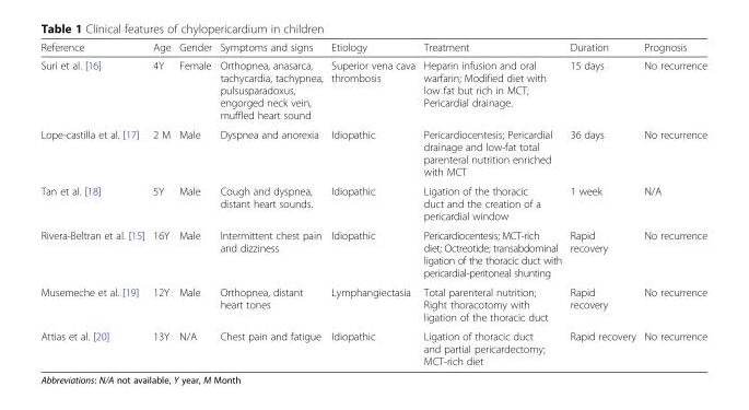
<table><thead><tr><td>Reference</td><td>Age</td><td>Gender</td><td>Symptoms and signs</td><td>Etiology</td><td>Treatment</td><td>Duration</td><td>Prognosis</td></tr></thead><tbody><tr><td>Suri et al. [16]</td><td>4Y</td><td>Female</td><td>Orthopnea, anasarca, tachycardia, tachypnea, pulsusparadoxus, engorged neck vein, muffled heart sound</td><td>Superior vena cava thrombosis</td><td>Heparin infusion and oral warfarin; Modified diet with low fat but rich in MCT; Pericardial drainage.</td><td>15 days</td><td>No recurrence</td></tr><tr><td>Lope-castilla et al. [17]</td><td>2 M</td><td>Male</td><td>Dyspnea and anorexia</td><td>Idiopathic</td><td>Pericardiocentesis; Pericardial drainage and low-fat total parenteral nutrition enriched with MCT</td><td>36 days</td><td>No recurrence</td></tr><tr><td>Tan et al. [18]</td><td>5Y</td><td>Male</td><td>Cough and dyspnea, distant heart sounds.</td><td>Idiopathic</td><td>Ligation of the thoracic duct and the creation of a pericardial window</td><td>1 week</td><td>N/A</td></tr><tr><td>Rivera-Beltran et al. [15]</td><td>16Y</td><td>Male</td><td>Intermittent chest pain and dizziness</td><td>Idiopathic</td><td>Pericardiocentesis; MCT-rich diet; Octreotide; transabdominal ligation of the thoracic duct with pericardial-peritoneal shunting</td><td>Rapid recovery</td><td>No recurrence</td></tr><tr><td>Musemeche et al. [19]</td><td>12Y</td><td>Male</td><td>Orthopnea, distant heart tones</td><td>Lymphangiectasia</td><td>Total parenteral nutrition; Right thoracotomy with ligation of the thoracic duct</td><td>Rapid recovery</td><td>No recurrence</td></tr><tr><td>Attias et al. [20]</td><td>13Y</td><td>N/A</td><td>Chest pain and fatigue</td><td>Idiopathic</td><td>Ligation of thoracic duct and partial pericardectomy; MCT-rich diet</td><td>Rapid recovery</td><td>No recurrence</td></tr></tbody></table>